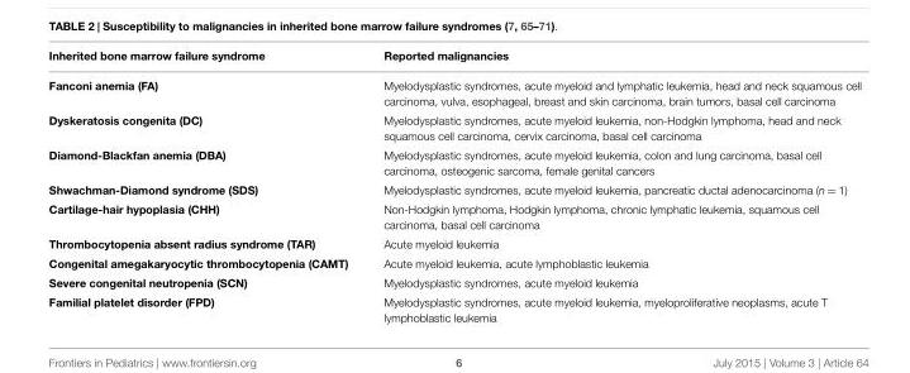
<table><thead><tr><td>Inherited bone marrow failure syndrome</td><td>Reported malignancies</td></tr></thead><tbody><tr><td>Fanconi anemia (FA)</td><td>Myelodysplastic syndromes, acute myeloid and lymphatic leukemia, head and neck squamous cell carcinoma, vulva, esophageal, breast and skin carcinoma, brain tumors, basal cell carcinoma</td></tr><tr><td>Dyskeratosis congenita (DC)</td><td>Myelodysplastic syndromes, acute myeloid leukemia, non-Hodgkin lymphoma, head and neck squamous cell carcinoma, cervix carcinoma, basal cell carcinoma</td></tr><tr><td>Diamond-Blackfan anemia (DBA)</td><td>Myelodysplastic syndromes, acute myeloid leukemia, colon and lung carcinoma, basal cell carcinoma, osteogenic sarcoma, female genital cancers</td></tr><tr><td>Shwachman-Diamond syndrome (SDS)</td><td>Myelodysplastic syndromes, acute myeloid leukemia, pancreatic ductal adenocarcinoma (n = 1)</td></tr><tr><td>Cartilage-hair hypoplasia (CHH)</td><td>Non-Hodgkin lymphoma, Hodgkin lymphoma, chronic lymphatic leukemia, squamous cell carcinoma, basal cell carcinoma</td></tr><tr><td>Thrombocytopenia absent radius syndrome (TAR)</td><td>Acute myeloid leukemia</td></tr><tr><td>Congenital amegakaryocytic thrombocytopenia (CAMT)</td><td>Acute myeloid leukemia, acute lymphoblastic leukemia</td></tr><tr><td>Severe congenital neutropenia (SCN)</td><td>Myelodysplastic syndromes, acute myeloid leukemia</td></tr><tr><td>Familial platelet disorder (FPD)</td><td>Myelodysplastic syndromes, acute myeloid leukemia, myeloproliferative neoplasms, acute T lymphoblastic leukemia</td></tr></tbody></table>